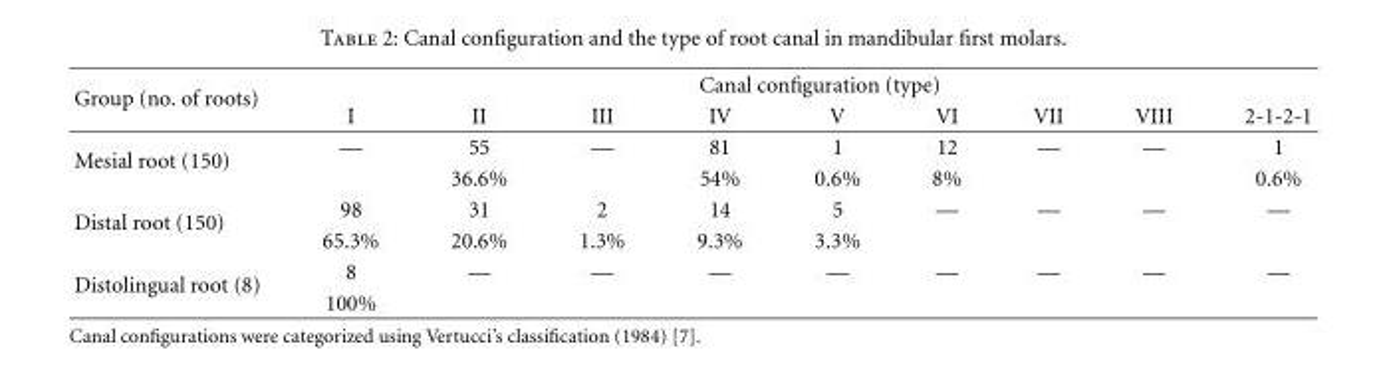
<table><thead><tr><td rowspan="2">Group (no. of roots)</td><td colspan="9">Canal configuration (type)</td></tr><tr><td>I</td><td>II</td><td>III</td><td>IV</td><td>V</td><td>VI</td><td>VII</td><td>VIII</td><td>2-1-2-1</td></tr></thead><tbody><tr><td rowspan="2">Mesial root (150)</td><td>—</td><td>55</td><td>—</td><td>81</td><td>1</td><td>12</td><td>—</td><td>—</td><td>1</td></tr><tr><td></td><td>36.6%</td><td></td><td>54%</td><td>0.6%</td><td>8%</td><td></td><td></td><td>0.6%</td></tr><tr><td rowspan="2">Distal root (150)</td><td>98</td><td>31</td><td>2</td><td>14</td><td>5</td><td>—</td><td>—</td><td>—</td><td>—</td></tr><tr><td>65.3%</td><td>20.6%</td><td>1.3%</td><td>9.3%</td><td>3.3%</td><td></td><td></td><td></td><td></td></tr><tr><td rowspan="2">Distolingual root (8)</td><td>8</td><td>—</td><td>—</td><td>—</td><td>—</td><td>—</td><td>—</td><td>—</td><td>—</td></tr><tr><td>100%</td><td></td><td></td><td></td><td></td><td></td><td></td><td></td><td></td></tr></tbody></table>